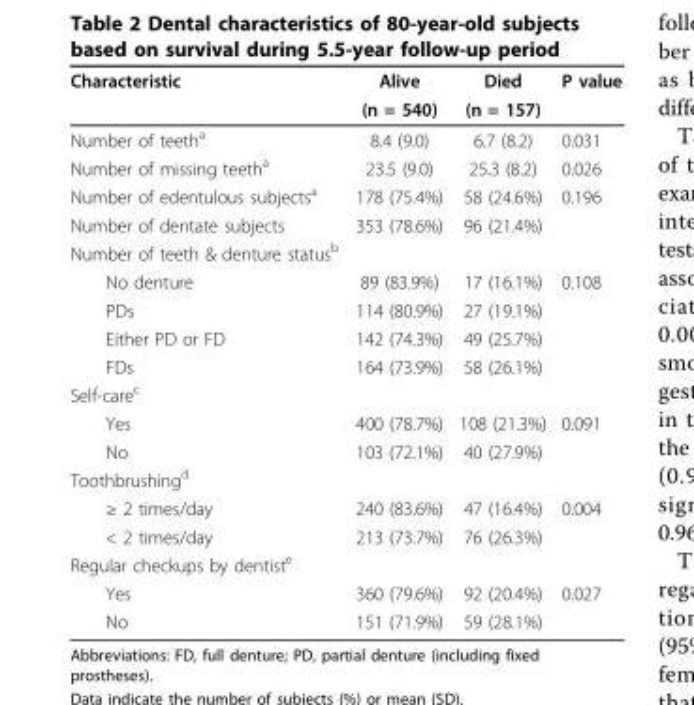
<table><thead><tr><td rowspan="2">Characteristic</td><td rowspan="2">Alive (n = 540)</td><td rowspan="2">Died (n = 157)</td><td rowspan="2">P value</td></tr><tr></tr></thead><tbody><tr><td>Number of teeth<sup>a</sup></td><td>8.4 (9.0)</td><td>6.7 (8.2)</td><td>0.031</td></tr><tr><td>Number of missing teeth<sup>a</sup></td><td>23.5 (9.0)</td><td>25.3 (8.2)</td><td>0.026</td></tr><tr><td>Number of edentulous subjects<sup>a</sup></td><td>178 (75.4%)</td><td>58 (24.6%)</td><td>0.196</td></tr><tr><td>Number of dentate subjects</td><td>353 (78.6%)</td><td>96 (21.4%)</td><td></td></tr><tr><td colspan="4">Number of teeth &amp; denture status<sup>b</sup></td></tr><tr><td>No denture</td><td>89 (83.9%)</td><td>17 (16.1%)</td><td>0.108</td></tr><tr><td>PDs</td><td>114 (80.9%)</td><td>27 (19.1%)</td><td></td></tr><tr><td>Either PD or FD</td><td>142 (74.3%)</td><td>49 (25.7%)</td><td></td></tr><tr><td>FDs</td><td>164 (73.9%)</td><td>58 (26.1%)</td><td></td></tr><tr><td colspan="4">Self-care<sup>c</sup></td></tr><tr><td>Yes</td><td>400 (78.7%)</td><td>108 (21.3%)</td><td>0.091</td></tr><tr><td>No</td><td>103 (72.1%)</td><td>40 (27.9%)</td><td></td></tr><tr><td colspan="4">Toothbrushing<sup>d</sup></td></tr><tr><td>≥ 2 times/day</td><td>240 (83.6%)</td><td>47 (16.4%)</td><td>0.004</td></tr><tr><td>&lt; 2 times/day</td><td>213 (73.7%)</td><td>76 (26.3%)</td><td></td></tr><tr><td colspan="4">Regular checkups by dentist<sup>e</sup></td></tr><tr><td>Yes</td><td>360 (79.6%)</td><td>92 (20.4%)</td><td>0.027</td></tr><tr><td>No</td><td>151 (71.9%)</td><td>59 (28.1%)</td><td></td></tr></tbody></table>